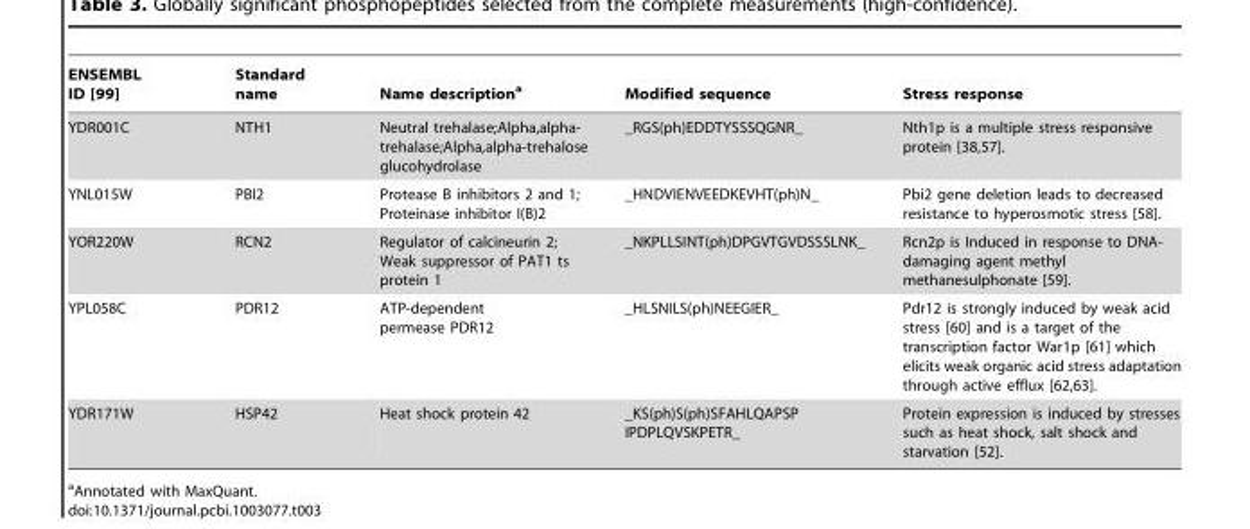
<table><thead><tr><td>ENSEMBL ID [99]</td><td>Standard name</td><td>Name description<sup>a</sup></td><td>Modified sequence</td><td>Stress response</td></tr></thead><tbody><tr><td>YDR001C</td><td>NTH1</td><td>Neutral trehalase;Alpha,alpha- trehalase;Alpha,alpha-trehalose glucohydrolase</td><td>_RGS(ph)EDDTYSSSQGNR_</td><td>Nth1p is a multiple stress responsive protein [38,57].</td></tr><tr><td>YNL015W</td><td>PBI2</td><td>Protease B inhibitors 2 and 1; Proteinase inhibitor I(B)2</td><td>_HNDVIENVEEDKEVHT(ph)N_</td><td>Pbi2 gene deletion leads to decreased resistance to hyperosmotic stress [58].</td></tr><tr><td>YOR220W</td><td>RCN2</td><td>Regulator of calcineurin 2; Weak suppressor of PAT1 ts protein 1</td><td>_NKPLLSINT(ph)DPGVTGVDSSSLNK_</td><td>Rcn2p is Induced in response to DNA- damaging agent methyl methanesulphonate [59].</td></tr><tr><td>YPL058C</td><td>PDR12</td><td>ATP-dependent permease PDR12</td><td>_HLSNILS(ph)NEEGIER_</td><td>Pdr12 is strongly induced by weak acid stress [60] and is a target of the transcription factor War1p [61] which elicits weak organic acid stress adaptation through active efflux [62,63].</td></tr><tr><td>YDR171W</td><td>HSP42</td><td>Heat shock protein 42</td><td>_KS(ph)S(ph)SFAHLQAPSP IPDPLQVSKPETR_</td><td>Protein expression is induced by stresses such as heat shock, salt shock and starvation [52].</td></tr></tbody></table>